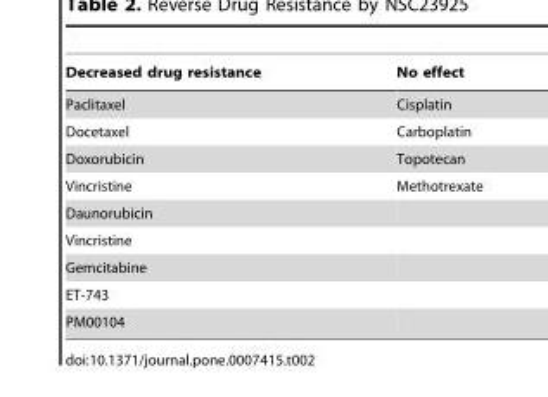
<table><thead><tr><td>Decreased drug resistance</td><td>No effect</td></tr></thead><tbody><tr><td>Paclitaxel</td><td>Cisplatin</td></tr><tr><td>Docetaxel</td><td>Carboplatin</td></tr><tr><td>Doxorubicin</td><td>Topotecan</td></tr><tr><td>Vincristine</td><td>Methotrexate</td></tr><tr><td colspan="2">Daunorubicin</td></tr><tr><td colspan="2">Vincristine</td></tr><tr><td colspan="2">Gemcitabine</td></tr><tr><td colspan="2">ET-743</td></tr><tr><td>PM00104</td><td></td></tr></tbody></table>